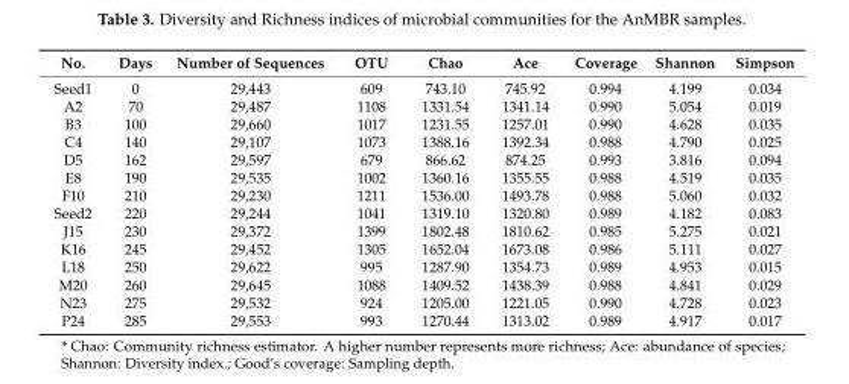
<table><thead><tr><td>No.</td><td>Days</td><td>Number of Sequences</td><td>OTU</td><td>Chao</td><td>Ace</td><td>Coverage</td><td>Shannon</td><td>Simpson</td></tr></thead><tbody><tr><td>Seed1</td><td>0</td><td>29,443</td><td>609</td><td>743.10</td><td>745.92</td><td>0.994</td><td>4.199</td><td>0.034</td></tr><tr><td>A2</td><td>70</td><td>29,487</td><td>1108</td><td>1331.54</td><td>1341.14</td><td>0.990</td><td>5.054</td><td>0.019</td></tr><tr><td>B3</td><td>100</td><td>29,660</td><td>1017</td><td>1231.55</td><td>1257.01</td><td>0.990</td><td>4.628</td><td>0.035</td></tr><tr><td>C4</td><td>140</td><td>29,107</td><td>1073</td><td>1388.16</td><td>1392.34</td><td>0.988</td><td>4.790</td><td>0.025</td></tr><tr><td>D5</td><td>162</td><td>29,597</td><td>679</td><td>866.62</td><td>874.25</td><td>0.993</td><td>3.816</td><td>0.094</td></tr><tr><td>E8</td><td>190</td><td>29,535</td><td>1002</td><td>1360.16</td><td>1355.55</td><td>0.988</td><td>4.519</td><td>0.035</td></tr><tr><td>F10</td><td>210</td><td>29,230</td><td>1211</td><td>1536.00</td><td>1493.78</td><td>0.988</td><td>5.060</td><td>0.032</td></tr><tr><td>Seed2</td><td>220</td><td>29,244</td><td>1041</td><td>1319.10</td><td>1320.80</td><td>0.989</td><td>4.182</td><td>0.083</td></tr><tr><td>J15</td><td>230</td><td>29,372</td><td>1399</td><td>1802.48</td><td>1810.62</td><td>0.985</td><td>5.275</td><td>0.021</td></tr><tr><td>K16</td><td>245</td><td>29,452</td><td>1305</td><td>1652.04</td><td>1673.08</td><td>0.986</td><td>5.111</td><td>0.027</td></tr><tr><td>L18</td><td>250</td><td>29,622</td><td>995</td><td>1287.90</td><td>1354.73</td><td>0.989</td><td>4.953</td><td>0.015</td></tr><tr><td>M20</td><td>260</td><td>29,645</td><td>1088</td><td>1409.52</td><td>1438.39</td><td>0.988</td><td>4.841</td><td>0.029</td></tr><tr><td>N23</td><td>275</td><td>29,532</td><td>924</td><td>1205.00</td><td>1221.05</td><td>0.990</td><td>4.728</td><td>0.023</td></tr><tr><td>P24</td><td>285</td><td>29,553</td><td>993</td><td>1270.44</td><td>1313.02</td><td>0.989</td><td>4.917</td><td>0.017</td></tr></tbody></table>